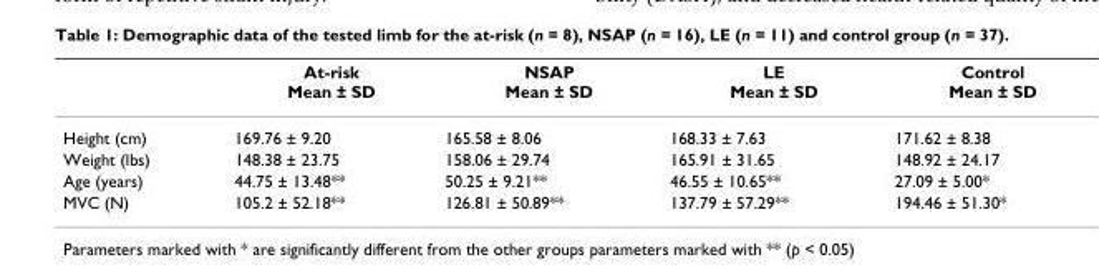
<table><thead><tr><td></td><td>At-risk Mean ± SD</td><td>NSAP Mean ± SD</td><td>LE Mean ± SD</td><td>Control Mean ± SD</td></tr></thead><tbody><tr><td>Height (cm)</td><td>169.76 ± 9.20</td><td>165.58 ± 8.06</td><td>168.33 ± 7.63</td><td>171.62 ± 8.38</td></tr><tr><td>Weight (lbs)</td><td>148.38 ± 23.75</td><td>158.06 ± 29.74</td><td>165.91 ± 31.65</td><td>148.92 ± 24.17</td></tr><tr><td>Age (years)</td><td>44.75 ± 13.48**</td><td>50.25 ± 9.21**</td><td>46.55 ± 10.65**</td><td>27.09 ± 5.00*</td></tr><tr><td>MVC (N)</td><td>105.2 ± 52.18**</td><td>126.81 ± 50.89**</td><td>137.79 ± 57.29**</td><td>194.46 ± 51.30*</td></tr></tbody></table>